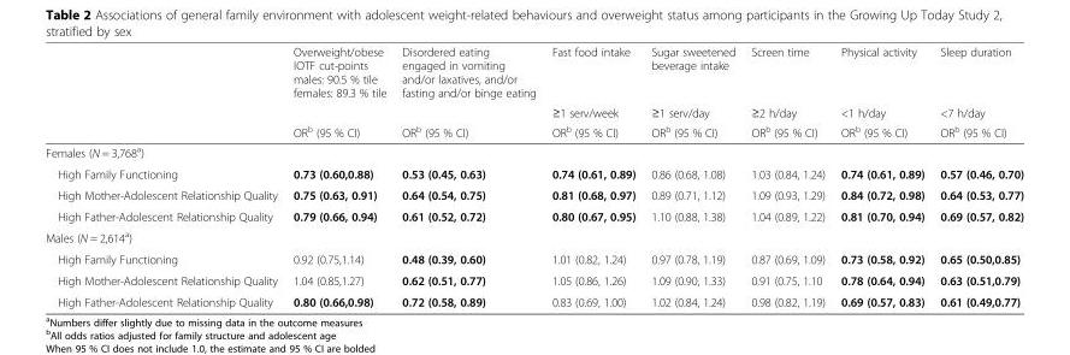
<table><thead><tr><td rowspan="3"></td><td rowspan="3">Overweight/obese IOTF cut-points males: 90.5 % tile females: 89.3 % tile OR<sup>b</sup> (95 % CI)</td><td rowspan="3">Disordered eating engaged in vomiting and/or laxatives, and/or fasting and/or binge eating OR<sup>b</sup> (95 % CI)</td><td rowspan="3">Fast food intake ≥1 serv/week OR<sup>b</sup> (95 % CI)</td><td rowspan="3">Sugar sweetened beverage intake ≥1 serv/day OR<sup>b</sup> (95 % CI)</td><td rowspan="3">Screen time ≥2 h/day OR<sup>b</sup> (95 % CI)</td><td rowspan="3">Physical activity &lt;1 h/day OR<sup>b</sup> (95 % CI)</td><td rowspan="3">Sleep duration &lt;7 h/day OR<sup>b</sup> (95 % CI)</td></tr><tr></tr><tr></tr></thead><tbody><tr><td colspan="8">Females (N = 3,768<sup>a</sup>)</td></tr><tr><td>High Family Functioning</td><td>0.73 (0.60,0.88)</td><td>0.53 (0.45, 0.63)</td><td>0.74 (0.61, 0.89)</td><td>0.86 (0.68, 1.08)</td><td>1.03 (0.84, 1.24)</td><td>0.74 (0.61, 0.89)</td><td>0.57 (0.46, 0.70)</td></tr><tr><td>High Mother-Adolescent Relationship Quality</td><td>0.75 (0.63, 0.91)</td><td>0.64 (0.54, 0.75)</td><td>0.81 (0.68, 0.97)</td><td>0.89 (0.71, 1.12)</td><td>1.09 (0.93, 1.29)</td><td>0.84 (0.72, 0.98)</td><td>0.64 (0.53, 0.77)</td></tr><tr><td>High Father-Adolescent Relationship Quality</td><td>0.79 (0.66, 0.94)</td><td>0.61 (0.52, 0.72)</td><td>0.80 (0.67, 0.95)</td><td>1.10 (0.88, 1.38)</td><td>1.04 (0.89, 1.22)</td><td>0.81 (0.70, 0.94)</td><td>0.69 (0.57, 0.82)</td></tr><tr><td colspan="8">Males (N = 2,614<sup>a</sup>)</td></tr><tr><td>High Family Functioning</td><td>0.92 (0.75,1.14)</td><td>0.48 (0.39, 0.60)</td><td>1.01 (0.82, 1.24)</td><td>0.97 (0.78, 1.19)</td><td>0.87 (0.69, 1.09)</td><td>0.73 (0.58, 0.92)</td><td>0.65 (0.50,0.85)</td></tr><tr><td>High Mother-Adolescent Relationship Quality</td><td>1.04 (0.85,1.27)</td><td>0.62 (0.51, 0.77)</td><td>1.05 (0.86, 1.26)</td><td>1.09 (0.90, 1.33)</td><td>0.91 (0.75, 1.10</td><td>0.78 (0.64, 0.94)</td><td>0.63 (0.51,0.79)</td></tr><tr><td>High Father-Adolescent Relationship Quality</td><td>0.80 (0.66,0.98)</td><td>0.72 (0.58, 0.89)</td><td>0.83 (0.69, 1.00)</td><td>1.02 (0.84, 1.24)</td><td>0.98 (0.82, 1.19)</td><td>0.69 (0.57, 0.83)</td><td>0.61 (0.49,0.77)</td></tr></tbody></table>